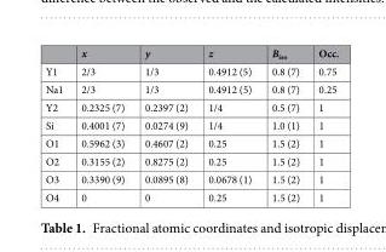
<table><thead><tr><td></td><td>x</td><td>y</td><td>z</td><td>B<sub>iso</sub></td><td>Occ.</td></tr></thead><tbody><tr><td>Y1</td><td>2/3</td><td>1/3</td><td>0.4912 (5)</td><td>0.8 (7)</td><td>0.75</td></tr><tr><td>Na1</td><td>2/3</td><td>1/3</td><td>0.4912 (5)</td><td>0.8 (7)</td><td>0.25</td></tr><tr><td>Y2</td><td>0.2325 (7)</td><td>0.2397 (2)</td><td>1/4</td><td>0.5 (7)</td><td>1</td></tr><tr><td>Si</td><td>0.4001 (7)</td><td>0.0274 (9)</td><td>1/4</td><td>1.0 (1)</td><td>1</td></tr><tr><td>O1</td><td>0.5962 (3)</td><td>0.4607 (2)</td><td>0.25</td><td>1.5 (2)</td><td>1</td></tr><tr><td>O2</td><td>0.3155 (2)</td><td>0.8275 (2)</td><td>0.25</td><td>1.5 (2)</td><td>1</td></tr><tr><td>O3</td><td>0.3390 (9)</td><td>0.0895 (8)</td><td>0.0678 (1)</td><td>1.5 (2)</td><td>1</td></tr><tr><td>O4</td><td>0</td><td>0</td><td>0.25</td><td>1.5 (2)</td><td>1</td></tr></tbody></table>